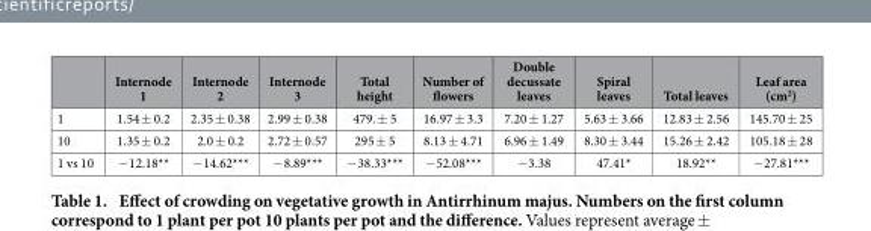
<table><thead><tr><td></td><td>Internode 1</td><td>Internode 2</td><td>Internode 3</td><td>Total height</td><td>Number of flowers</td><td>Double decussate leaves</td><td>Spiral leaves</td><td>Total leaves</td><td>Leaf area (cm<sup>2</sup>)</td></tr></thead><tbody><tr><td>1</td><td>1.54 ± 0.2</td><td>2.35 ± 0.38</td><td>2.99 ± 0.38</td><td>479. ± 5</td><td>16.97 ± 3.3</td><td>7.20 ± 1.27</td><td>5.63 ± 3.66</td><td>12.83 ± 2.56</td><td>145.70 ± 25</td></tr><tr><td>10</td><td>1.35 ± 0.2</td><td>2.0 ± 0.2</td><td>2.72 ± 0.57</td><td>295 ± 5</td><td>8.13 ± 4.71</td><td>6.96 ± 1.49</td><td>8.30 ± 3.44</td><td>15.26 ± 2.42</td><td>105.18 ± 28</td></tr><tr><td>1 vs 10</td><td>− 12.18**</td><td>− 14.62***</td><td>− 8.89***</td><td>− 38.33***</td><td>− 52.08***</td><td>− 3.38</td><td>47.41*</td><td>18.92**</td><td>− 27.81***</td></tr></tbody></table>